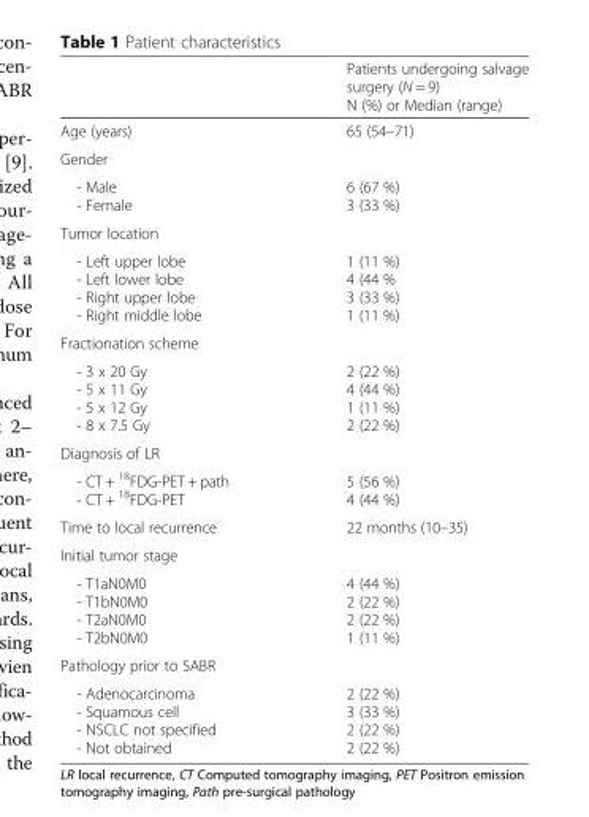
<table><thead><tr><td></td><td>Patients undergoing salvage surgery (N = 9) N (%) or Median (range)</td></tr></thead><tbody><tr><td>Age (years)</td><td>65 (54–71)</td></tr><tr><td colspan="2">Gender</td></tr><tr><td>- Male - Female</td><td>6 (67 %) 3 (33 %)</td></tr><tr><td colspan="2">Tumor location</td></tr><tr><td>- Left upper lobe - Left lower lobe - Right upper lobe - Right middle lobe</td><td>1 (11 %) 4 (44 % 3 (33 %) 1 (11 %)</td></tr><tr><td colspan="2">Fractionation scheme</td></tr><tr><td>- 3 x 20 Gy - 5 x 11 Gy - 5 x 12 Gy - 8 x 7.5 Gy</td><td>2 (22 %) 4 (44 %) 1 (11 %) 2 (22 %)</td></tr><tr><td colspan="2">Diagnosis of LR</td></tr><tr><td>- CT + <sup>18</sup>FDG-PET + path - CT + <sup>18</sup>FDG-PET</td><td>5 (56 %) 4 (44 %)</td></tr><tr><td>Time to local recurrence</td><td>22 months (10–35)</td></tr><tr><td colspan="2">Initial tumor stage</td></tr><tr><td>- T1aN0M0 - T1bN0M0 - T2aN0M0 - T2bN0M0</td><td>4 (44 %) 2 (22 %) 2 (22 %) 1 (11 %)</td></tr><tr><td colspan="2">Pathology prior to SABR</td></tr><tr><td>- Adenocarcinoma - Squamous cell - NSCLC not specified - Not obtained</td><td>2 (22 %) 3 (33 %) 2 (22 %) 2 (22 %)</td></tr></tbody></table>